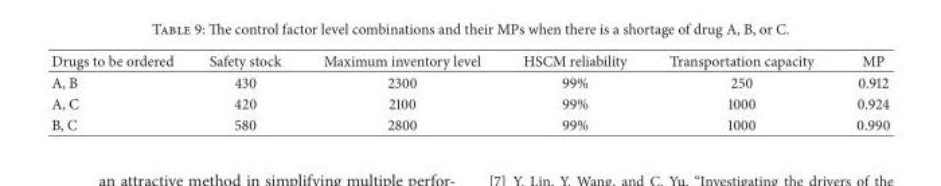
<table><thead><tr><td>Drugs to be ordered</td><td>Safety stock</td><td>Maximum inventory level</td><td>HSCM reliability</td><td>Transportation capacity</td><td>MP</td></tr></thead><tbody><tr><td>A, B</td><td>430</td><td>2300</td><td>99%</td><td>250</td><td>0.912</td></tr><tr><td>A, C</td><td>420</td><td>2100</td><td>99%</td><td>1000</td><td>0.924</td></tr><tr><td>B, C</td><td>580</td><td>2800</td><td>99%</td><td>1000</td><td>0.990</td></tr></tbody></table>